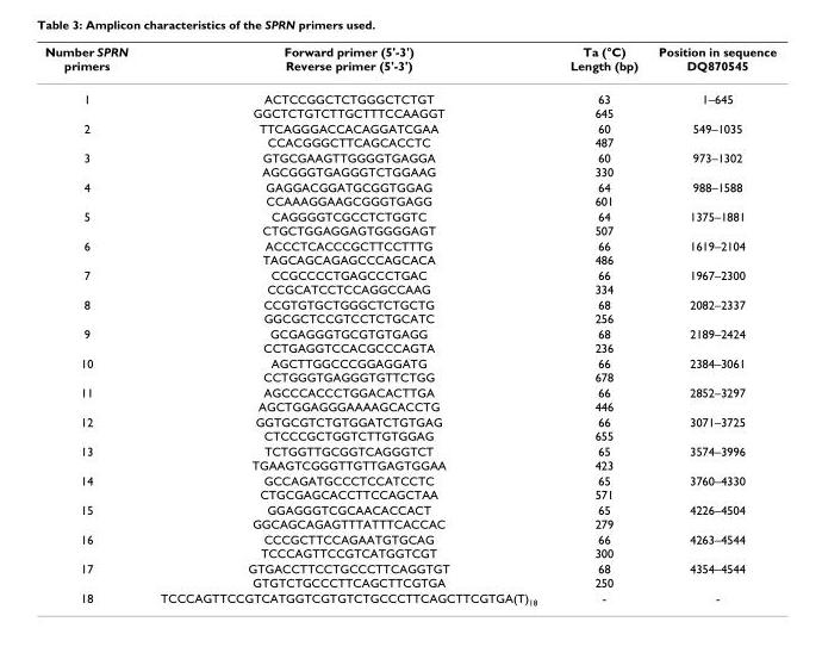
<table><thead><tr><td>Number SPRN primers</td><td>Forward primer (5&#x27;-3&#x27;) Reverse primer (5&#x27;-3&#x27;)</td><td>Ta (°C) Length (bp)</td><td>Position in sequence DQ870545</td></tr></thead><tbody><tr><td>1</td><td>ACTCCGGCTCTGGGCTCTGT GGCTCTGTCTTGCTTTCCAAGGT</td><td>63 645</td><td>1–645</td></tr><tr><td>2</td><td>TTCAGGGACCACAGGATCGAA CCACGGGCTTCAGCACCTC</td><td>60 487</td><td>549–1035</td></tr><tr><td>3</td><td>GTGCGAAGTTGGGGTGAGGA AGCGGGTGAGGGTCTGGAAG</td><td>60 330</td><td>973–1302</td></tr><tr><td>4</td><td>GAGGACGGATGCGGTGGAG CCAAAGGAAGCGGGTGAGG</td><td>64 601</td><td>988–1588</td></tr><tr><td>5</td><td>CAGGGGTCGCCTCTGGTC CTGCTGGAGGAGTGGGGAGT</td><td>64 507</td><td>1375–1881</td></tr><tr><td>6</td><td>ACCCTCACCCGCTTCCTTTG TAGCAGCAGAGCCCAGCACA</td><td>66 486</td><td>1619–2104</td></tr><tr><td>7</td><td>CCGCCCCTGAGCCCTGAC CCGCATCCTCCAGGCCAAG</td><td>66 334</td><td>1967–2300</td></tr><tr><td>8</td><td>CCGTGTGCTGGGCTCTGCTG GGCGCTCCGTCCTCTGCATC</td><td>68 256</td><td>2082–2337</td></tr><tr><td>9</td><td>GCGAGGGTGCGTGTGAGG CCTGAGGTCCACGCCCAGTA</td><td>68 236</td><td>2189–2424</td></tr><tr><td>10</td><td>AGCTTGGCCCGGAGGATG CCTGGGTGAGGGTGTTCTGG</td><td>66 678</td><td>2384–3061</td></tr><tr><td>11</td><td>AGCCCACCCTGGACACTTGA AGCTGGAGGGAAAAGCACCTG</td><td>66 446</td><td>2852–3297</td></tr><tr><td>12</td><td>GGTGCGTCTGTGGATCTGTGAG CTCCCGCTGGTCTTGTGGAG</td><td>66 655</td><td>3071–3725</td></tr><tr><td>13</td><td>TCTGGTTGCGGTCAGGGTCT TGAAGTCGGGTTGTTGAGTGGAA</td><td>65 423</td><td>3574–3996</td></tr><tr><td>14</td><td>GCCAGATGCCCTCCATCCTC CTGCGAGCACCTTCCAGCTAA</td><td>65 571</td><td>3760–4330</td></tr><tr><td>15</td><td>GGAGGGTCGCAACACCACT GGCAGCAGAGTTTATTTCACCAC</td><td>65 279</td><td>4226–4504</td></tr><tr><td>16</td><td>CCCGCTTCCAGAATGTGCAG TCCCAGTTCCGTCATGGTCGT</td><td>66 300</td><td>4263–4544</td></tr><tr><td>17</td><td>GTGACCTTCCTGCCCTTCAGGTGT GTGTCTGCCCTTCAGCTTCGTGA</td><td>68 250</td><td>4354–4544</td></tr><tr><td>18</td><td>TCCCAGTTCCGTCATGGTCGTGTCTGCCCTTCAGCTTCGTGA(T)<sub>18</sub></td><td>-</td><td>-</td></tr></tbody></table>